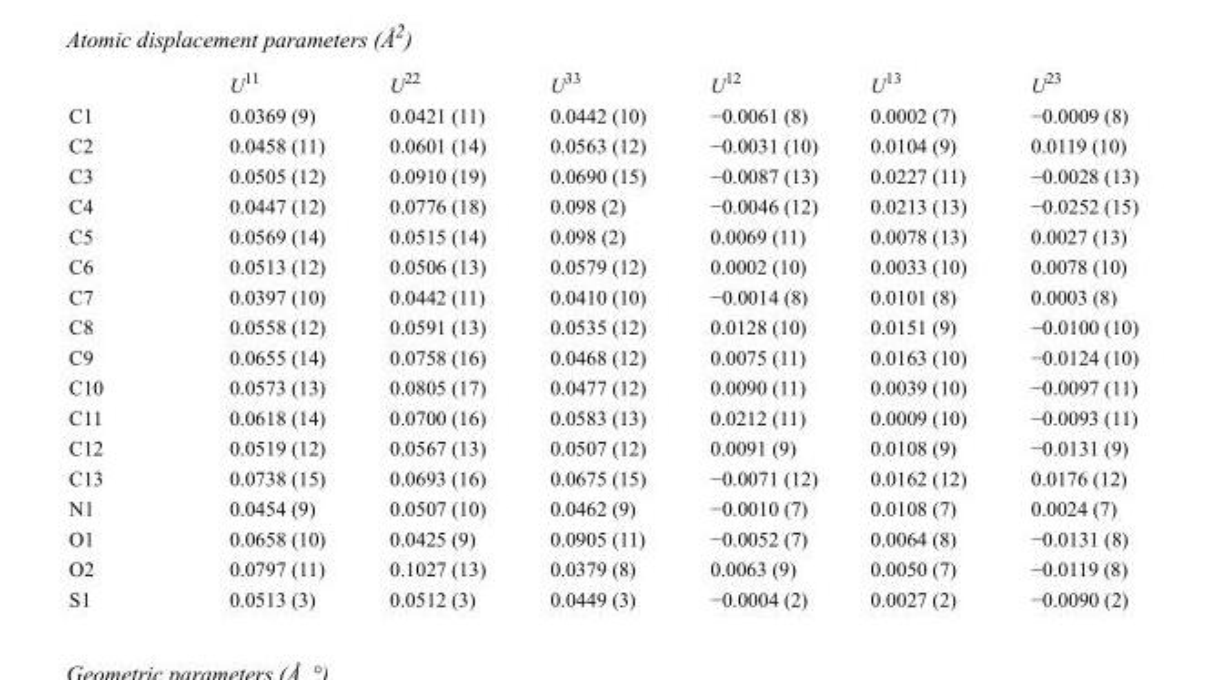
<table><thead><tr><td></td><td>U<sup>11</sup></td><td>U<sup>22</sup></td><td>U<sup>33</sup></td><td>U<sup>12</sup></td><td>U<sup>13</sup></td><td>U<sup>23</sup></td></tr></thead><tbody><tr><td>C1</td><td>0.0369 (9)</td><td>0.0421 (11)</td><td>0.0442 (10)</td><td>−0.0061 (8)</td><td>0.0002 (7)</td><td>−0.0009 (8)</td></tr><tr><td>C2</td><td>0.0458 (11)</td><td>0.0601 (14)</td><td>0.0563 (12)</td><td>−0.0031 (10)</td><td>0.0104 (9)</td><td>0.0119 (10)</td></tr><tr><td>C3</td><td>0.0505 (12)</td><td>0.0910 (19)</td><td>0.0690 (15)</td><td>−0.0087 (13)</td><td>0.0227 (11)</td><td>−0.0028 (13)</td></tr><tr><td>C4</td><td>0.0447 (12)</td><td>0.0776 (18)</td><td>0.098 (2)</td><td>−0.0046 (12)</td><td>0.0213 (13)</td><td>−0.0252 (15)</td></tr><tr><td>C5</td><td>0.0569 (14)</td><td>0.0515 (14)</td><td>0.098 (2)</td><td>0.0069 (11)</td><td>0.0078 (13)</td><td>0.0027 (13)</td></tr><tr><td>C6</td><td>0.0513 (12)</td><td>0.0506 (13)</td><td>0.0579 (12)</td><td>0.0002 (10)</td><td>0.0033 (10)</td><td>0.0078 (10)</td></tr><tr><td>C7</td><td>0.0397 (10)</td><td>0.0442 (11)</td><td>0.0410 (10)</td><td>−0.0014 (8)</td><td>0.0101 (8)</td><td>0.0003 (8)</td></tr><tr><td>C8</td><td>0.0558 (12)</td><td>0.0591 (13)</td><td>0.0535 (12)</td><td>0.0128 (10)</td><td>0.0151 (9)</td><td>−0.0100 (10)</td></tr><tr><td>C9</td><td>0.0655 (14)</td><td>0.0758 (16)</td><td>0.0468 (12)</td><td>0.0075 (11)</td><td>0.0163 (10)</td><td>−0.0124 (10)</td></tr><tr><td>C10</td><td>0.0573 (13)</td><td>0.0805 (17)</td><td>0.0477 (12)</td><td>0.0090 (11)</td><td>0.0039 (10)</td><td>−0.0097 (11)</td></tr><tr><td>C11</td><td>0.0618 (14)</td><td>0.0700 (16)</td><td>0.0583 (13)</td><td>0.0212 (11)</td><td>0.0009 (10)</td><td>−0.0093 (11)</td></tr><tr><td>C12</td><td>0.0519 (12)</td><td>0.0567 (13)</td><td>0.0507 (12)</td><td>0.0091 (9)</td><td>0.0108 (9)</td><td>−0.0131 (9)</td></tr><tr><td>C13</td><td>0.0738 (15)</td><td>0.0693 (16)</td><td>0.0675 (15)</td><td>−0.0071 (12)</td><td>0.0162 (12)</td><td>0.0176 (12)</td></tr><tr><td>N1</td><td>0.0454 (9)</td><td>0.0507 (10)</td><td>0.0462 (9)</td><td>−0.0010 (7)</td><td>0.0108 (7)</td><td>0.0024 (7)</td></tr><tr><td>O1</td><td>0.0658 (10)</td><td>0.0425 (9)</td><td>0.0905 (11)</td><td>−0.0052 (7)</td><td>0.0064 (8)</td><td>−0.0131 (8)</td></tr><tr><td>O2</td><td>0.0797 (11)</td><td>0.1027 (13)</td><td>0.0379 (8)</td><td>0.0063 (9)</td><td>0.0050 (7)</td><td>−0.0119 (8)</td></tr><tr><td>S1</td><td>0.0513 (3)</td><td>0.0512 (3)</td><td>0.0449 (3)</td><td>−0.0004 (2)</td><td>0.0027 (2)</td><td>−0.0090 (2)</td></tr></tbody></table>